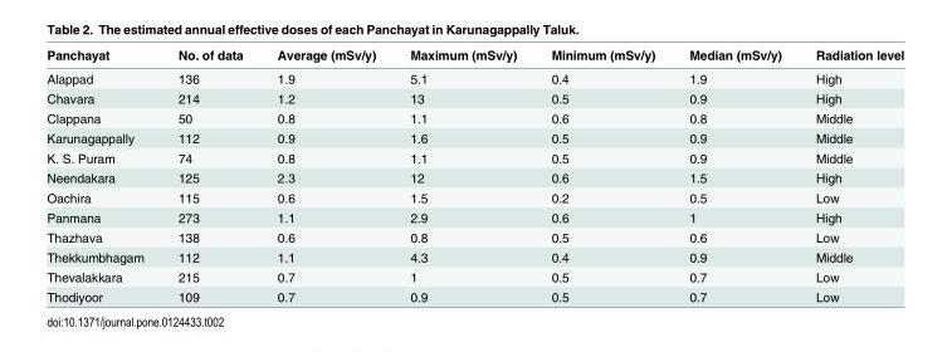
<table><thead><tr><td>Panchayat</td><td>No. of data</td><td>Average (mSv/y)</td><td>Maximum (mSv/y)</td><td>Minimum (mSv/y)</td><td>Median (mSv/y)</td><td>Radiation level</td></tr></thead><tbody><tr><td>Alappad</td><td>136</td><td>1.9</td><td>5.1</td><td>0.4</td><td>1.9</td><td>High</td></tr><tr><td>Chavara</td><td>214</td><td>1.2</td><td>13</td><td>0.5</td><td>0.9</td><td>High</td></tr><tr><td>Clappana</td><td>50</td><td>0.8</td><td>1.1</td><td>0.6</td><td>0.8</td><td>Middle</td></tr><tr><td>Karunagappally</td><td>112</td><td>0.9</td><td>1.6</td><td>0.5</td><td>0.9</td><td>Middle</td></tr><tr><td>K. S. Puram</td><td>74</td><td>0.8</td><td>1.1</td><td>0.5</td><td>0.9</td><td>Middle</td></tr><tr><td>Neendakara</td><td>125</td><td>2.3</td><td>12</td><td>0.6</td><td>1.5</td><td>High</td></tr><tr><td>Oachira</td><td>115</td><td>0.6</td><td>1.5</td><td>0.2</td><td>0.5</td><td>Low</td></tr><tr><td>Panmana</td><td>273</td><td>1.1</td><td>2.9</td><td>0.6</td><td>1</td><td>High</td></tr><tr><td>Thazhava</td><td>138</td><td>0.6</td><td>0.8</td><td>0.5</td><td>0.6</td><td>Low</td></tr><tr><td>Thekkumbhagam</td><td>112</td><td>1.1</td><td>4.3</td><td>0.4</td><td>0.9</td><td>Middle</td></tr><tr><td>Thevalakkara</td><td>215</td><td>0.7</td><td>1</td><td>0.5</td><td>0.7</td><td>Low</td></tr><tr><td>Thodiyoor</td><td>109</td><td>0.7</td><td>0.9</td><td>0.5</td><td>0.7</td><td>Low</td></tr></tbody></table>